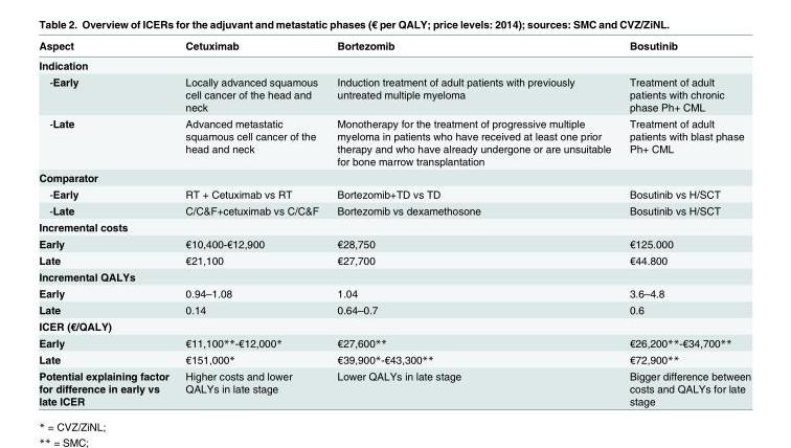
<table><thead><tr><td>Aspect</td><td>Cetuximab</td><td>Bortezomib</td><td>Bosutinib</td></tr></thead><tbody><tr><td colspan="4">Indication</td></tr><tr><td>-Early</td><td>Locally advanced squamous cell cancer of the head and neck</td><td>Induction treatment of adult patients with previously untreated multiple myeloma</td><td>Treatment of adult patients with chronic phase Ph+ CML</td></tr><tr><td>-Late</td><td>Advanced metastatic squamous cell cancer of the head and neck</td><td>Monotherapy for the treatment of progressive multiple myeloma in patients who have received at least one prior therapy and who have already undergone or are unsuitable for bone marrow transplantation</td><td>Treatment of adult patients with blast phase Ph+ CML</td></tr><tr><td colspan="4">Comparator</td></tr><tr><td>-Early</td><td>RT + Cetuximab vs RT</td><td>Bortezomib+TD vs TD</td><td>Bosutinib vs H/SCT</td></tr><tr><td>-Late</td><td>C/C&amp;F+cetuximab vs C/C&amp;F</td><td>Bortezomib vs dexamethosone</td><td>Bosutinib vs H/SCT</td></tr><tr><td colspan="4">Incremental costs</td></tr><tr><td>Early</td><td>€10,400-€12,900</td><td>€28,750</td><td>€125.000</td></tr><tr><td>Late</td><td>€21,100</td><td>€27,700</td><td>€44.800</td></tr><tr><td colspan="4">Incremental QALYs</td></tr><tr><td>Early</td><td>0.94–1.08</td><td>1.04</td><td>3.6–4.8</td></tr><tr><td>Late</td><td>0.14</td><td>0.64–0.7</td><td>0.6</td></tr><tr><td colspan="4">ICER (€/QALY)</td></tr><tr><td>Early</td><td>€11,100**-€12,000*</td><td>€27,600**</td><td>€26,200**-€34,700**</td></tr><tr><td>Late</td><td>€151,000*</td><td>€39,900*-€43,300**</td><td>€72,900**</td></tr><tr><td>Potential explaining factor for difference in early vs late ICER</td><td>Higher costs and lower QALYs in late stage</td><td>Lower QALYs in late stage</td><td>Bigger difference between costs and QALYs for late stage</td></tr></tbody></table>